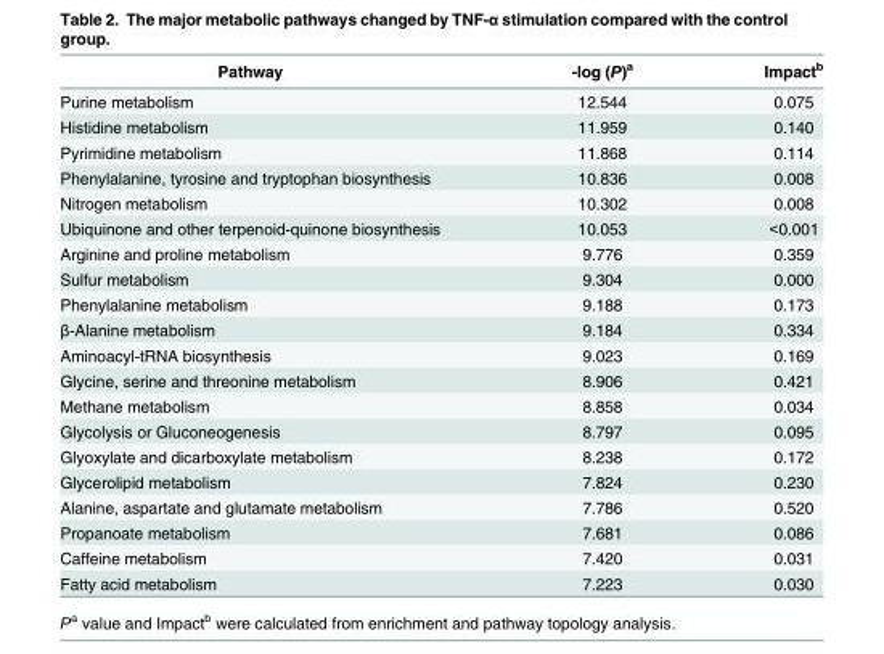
<table><thead><tr><td>Pathway</td><td>-log (P)<sup>a</sup></td><td>Impact<sup>b</sup></td></tr></thead><tbody><tr><td>Purine metabolism</td><td>12.544</td><td>0.075</td></tr><tr><td>Histidine metabolism</td><td>11.959</td><td>0.140</td></tr><tr><td>Pyrimidine metabolism</td><td>11.868</td><td>0.114</td></tr><tr><td>Phenylalanine, tyrosine and tryptophan biosynthesis</td><td>10.836</td><td>0.008</td></tr><tr><td>Nitrogen metabolism</td><td>10.302</td><td>0.008</td></tr><tr><td>Ubiquinone and other terpenoid-quinone biosynthesis</td><td>10.053</td><td>&lt;0.001</td></tr><tr><td>Arginine and proline metabolism</td><td>9.776</td><td>0.359</td></tr><tr><td>Sulfur metabolism</td><td>9.304</td><td>0.000</td></tr><tr><td>Phenylalanine metabolism</td><td>9.188</td><td>0.173</td></tr><tr><td>β-Alanine metabolism</td><td>9.184</td><td>0.334</td></tr><tr><td>Aminoacyl-tRNA biosynthesis</td><td>9.023</td><td>0.169</td></tr><tr><td>Glycine, serine and threonine metabolism</td><td>8.906</td><td>0.421</td></tr><tr><td>Methane metabolism</td><td>8.858</td><td>0.034</td></tr><tr><td>Glycolysis or Gluconeogenesis</td><td>8.797</td><td>0.095</td></tr><tr><td>Glyoxylate and dicarboxylate metabolism</td><td>8.238</td><td>0.172</td></tr><tr><td>Glycerolipid metabolism</td><td>7.824</td><td>0.230</td></tr><tr><td>Alanine, aspartate and glutamate metabolism</td><td>7.786</td><td>0.520</td></tr><tr><td>Propanoate metabolism</td><td>7.681</td><td>0.086</td></tr><tr><td>Caffeine metabolism</td><td>7.420</td><td>0.031</td></tr><tr><td>Fatty acid metabolism</td><td>7.223</td><td>0.030</td></tr></tbody></table>